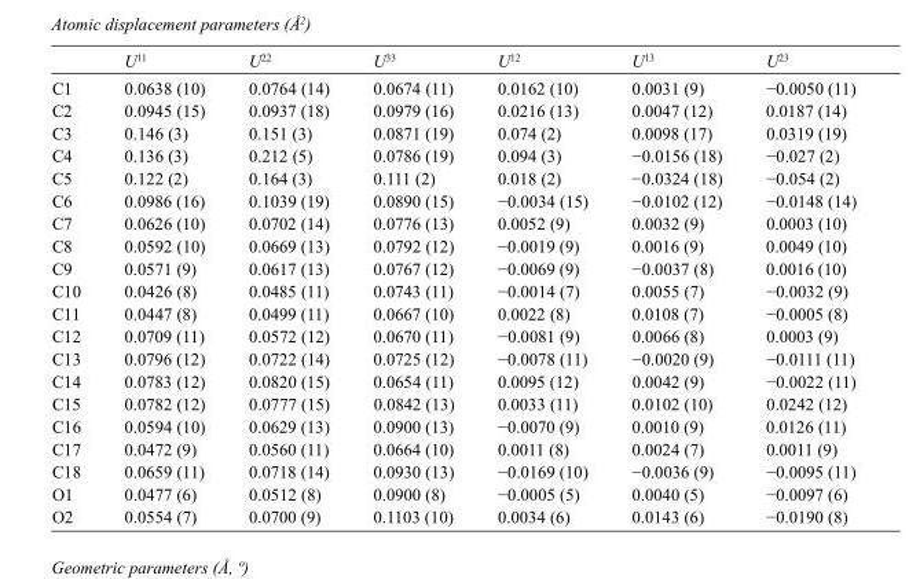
<table><thead><tr><td></td><td>U<sup>11</sup></td><td>U<sup>22</sup></td><td>U<sup>33</sup></td><td>U<sup>12</sup></td><td>U<sup>13</sup></td><td>U<sup>23</sup></td></tr></thead><tbody><tr><td>C1</td><td>0.0638 (10)</td><td>0.0764 (14)</td><td>0.0674 (11)</td><td>0.0162 (10)</td><td>0.0031 (9)</td><td>−0.0050 (11)</td></tr><tr><td>C2</td><td>0.0945 (15)</td><td>0.0937 (18)</td><td>0.0979 (16)</td><td>0.0216 (13)</td><td>0.0047 (12)</td><td>0.0187 (14)</td></tr><tr><td>C3</td><td>0.146 (3)</td><td>0.151 (3)</td><td>0.0871 (19)</td><td>0.074 (2)</td><td>0.0098 (17)</td><td>0.0319 (19)</td></tr><tr><td>C4</td><td>0.136 (3)</td><td>0.212 (5)</td><td>0.0786 (19)</td><td>0.094 (3)</td><td>−0.0156 (18)</td><td>−0.027 (2)</td></tr><tr><td>C5</td><td>0.122 (2)</td><td>0.164 (3)</td><td>0.111 (2)</td><td>0.018 (2)</td><td>−0.0324 (18)</td><td>−0.054 (2)</td></tr><tr><td>C6</td><td>0.0986 (16)</td><td>0.1039 (19)</td><td>0.0890 (15)</td><td>−0.0034 (15)</td><td>−0.0102 (12)</td><td>−0.0148 (14)</td></tr><tr><td>C7</td><td>0.0626 (10)</td><td>0.0702 (14)</td><td>0.0776 (13)</td><td>0.0052 (9)</td><td>0.0032 (9)</td><td>0.0003 (10)</td></tr><tr><td>C8</td><td>0.0592 (10)</td><td>0.0669 (13)</td><td>0.0792 (12)</td><td>−0.0019 (9)</td><td>0.0016 (9)</td><td>0.0049 (10)</td></tr><tr><td>C9</td><td>0.0571 (9)</td><td>0.0617 (13)</td><td>0.0767 (12)</td><td>−0.0069 (9)</td><td>−0.0037 (8)</td><td>0.0016 (10)</td></tr><tr><td>C10</td><td>0.0426 (8)</td><td>0.0485 (11)</td><td>0.0743 (11)</td><td>−0.0014 (7)</td><td>0.0055 (7)</td><td>−0.0032 (9)</td></tr><tr><td>C11</td><td>0.0447 (8)</td><td>0.0499 (11)</td><td>0.0667 (10)</td><td>0.0022 (8)</td><td>0.0108 (7)</td><td>−0.0005 (8)</td></tr><tr><td>C12</td><td>0.0709 (11)</td><td>0.0572 (12)</td><td>0.0670 (11)</td><td>−0.0081 (9)</td><td>0.0066 (8)</td><td>0.0003 (9)</td></tr><tr><td>C13</td><td>0.0796 (12)</td><td>0.0722 (14)</td><td>0.0725 (12)</td><td>−0.0078 (11)</td><td>−0.0020 (9)</td><td>−0.0111 (11)</td></tr><tr><td>C14</td><td>0.0783 (12)</td><td>0.0820 (15)</td><td>0.0654 (11)</td><td>0.0095 (12)</td><td>0.0042 (9)</td><td>−0.0022 (11)</td></tr><tr><td>C15</td><td>0.0782 (12)</td><td>0.0777 (15)</td><td>0.0842 (13)</td><td>0.0033 (11)</td><td>0.0102 (10)</td><td>0.0242 (12)</td></tr><tr><td>C16</td><td>0.0594 (10)</td><td>0.0629 (13)</td><td>0.0900 (13)</td><td>−0.0070 (9)</td><td>0.0010 (9)</td><td>0.0126 (11)</td></tr><tr><td>C17</td><td>0.0472 (9)</td><td>0.0560 (11)</td><td>0.0664 (10)</td><td>0.0011 (8)</td><td>0.0024 (7)</td><td>0.0011 (9)</td></tr><tr><td>C18</td><td>0.0659 (11)</td><td>0.0718 (14)</td><td>0.0930 (13)</td><td>−0.0169 (10)</td><td>−0.0036 (9)</td><td>−0.0095 (11)</td></tr><tr><td>O1</td><td>0.0477 (6)</td><td>0.0512 (8)</td><td>0.0900 (8)</td><td>−0.0005 (5)</td><td>0.0040 (5)</td><td>−0.0097 (6)</td></tr><tr><td>O2</td><td>0.0554 (7)</td><td>0.0700 (9)</td><td>0.1103 (10)</td><td>0.0034 (6)</td><td>0.0143 (6)</td><td>−0.0190 (8)</td></tr></tbody></table>